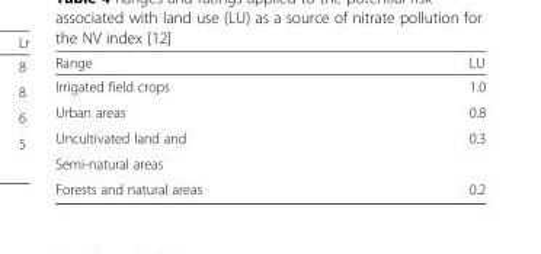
<table><thead><tr><td>Range</td><td>LU</td></tr></thead><tbody><tr><td>Irrigated field crops</td><td>1.0</td></tr><tr><td>Urban areas</td><td>0.8</td></tr><tr><td>Uncultivated land and</td><td>0.3</td></tr><tr><td colspan="2">Semi-natural areas</td></tr><tr><td>Forests and natural areas</td><td>0.2</td></tr></tbody></table>